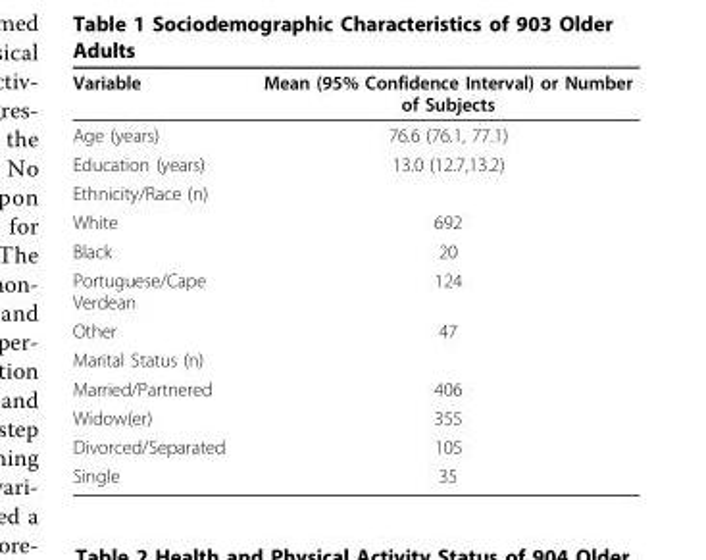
<table><thead><tr><td>Variable</td><td>Mean (95% Confidence Interval) or Number of Subjects</td></tr></thead><tbody><tr><td>Age (years)</td><td>76.6 (76.1, 77.1)</td></tr><tr><td>Education (years)</td><td>13.0 (12.7,13.2)</td></tr><tr><td colspan="2">Ethnicity/Race (n)</td></tr><tr><td>White</td><td>692</td></tr><tr><td>Black</td><td>20</td></tr><tr><td>Portuguese/Cape Verdean</td><td>124</td></tr><tr><td>Other</td><td>47</td></tr><tr><td colspan="2">Marital Status (n)</td></tr><tr><td>Married/Partnered</td><td>406</td></tr><tr><td>Widow(er)</td><td>355</td></tr><tr><td>Divorced/Separated</td><td>105</td></tr><tr><td>Single</td><td>35</td></tr></tbody></table>